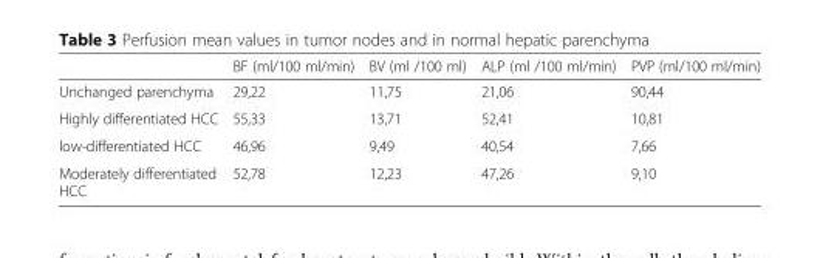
<table><thead><tr><td></td><td>BF (ml/100 ml/min)</td><td>BV (ml /100 ml)</td><td>ALP (ml /100 ml/min)</td><td>PVP (ml/100 ml/min)</td></tr></thead><tbody><tr><td>Unchanged parenchyma</td><td>29,22</td><td>11,75</td><td>21,06</td><td>90,44</td></tr><tr><td>Highly differentiated HCC</td><td>55,33</td><td>13,71</td><td>52,41</td><td>10,81</td></tr><tr><td>low-differentiated HCC</td><td>46,96</td><td>9,49</td><td>40,54</td><td>7,66</td></tr><tr><td>Moderately differentiated HCC</td><td>52,78</td><td>12,23</td><td>47,26</td><td>9,10</td></tr></tbody></table>